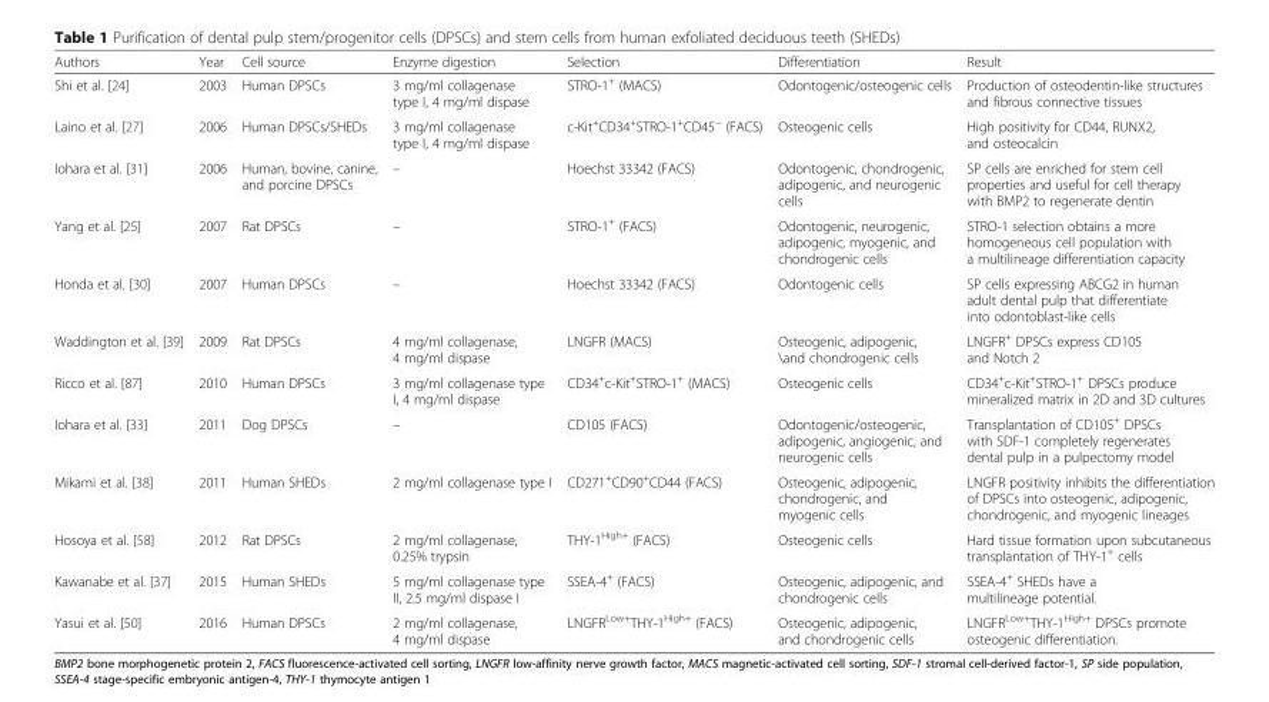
<table><thead><tr><td>Authors</td><td>Year</td><td>Cell source</td><td>Enzyme digestion</td><td>Selection</td><td>Differentiation</td><td>Result</td></tr></thead><tbody><tr><td>Shi et al. [24]</td><td>2003</td><td>Human DPSCs</td><td>3 mg/ml collagenase type I, 4 mg/ml dispase</td><td>STRO-1<sup>+</sup> (MACS)</td><td>Odontogenic/osteogenic cells</td><td>Production of osteodentin-like structures and fibrous connective tissues</td></tr><tr><td>Laino et al. [27]</td><td>2006</td><td>Human DPSCs/SHEDs</td><td>3 mg/ml collagenase type I, 4 mg/ml dispase</td><td>c-Kit<sup>+</sup>CD34<sup>+</sup>STRO-1<sup>+</sup>CD45<sup>−</sup> (FACS)</td><td>Osteogenic cells</td><td>High positivity for CD44, RUNX2, and osteocalcin</td></tr><tr><td>Iohara et al. [31]</td><td>2006</td><td>Human, bovine, canine, and porcine DPSCs</td><td>–</td><td>Hoechst 33342 (FACS)</td><td>Odontogenic, chondrogenic, adipogenic, and neurogenic cells</td><td>SP cells are enriched for stem cell properties and useful for cell therapy with BMP2 to regenerate dentin</td></tr><tr><td>Yang et al. [25]</td><td>2007</td><td>Rat DPSCs</td><td>–</td><td>STRO-1<sup>+</sup> (FACS)</td><td>Odontogenic, neurogenic, adipogenic, myogenic, and chondrogenic cells</td><td>STRO-1 selection obtains a more homogeneous cell population with a multilineage differentiation capacity</td></tr><tr><td>Honda et al. [30]</td><td>2007</td><td>Human DPSCs</td><td>–</td><td>Hoechst 33342 (FACS)</td><td>Odontogenic cells</td><td>SP cells expressing ABCG2 in human adult dental pulp that differentiate into odontoblast-like cells</td></tr><tr><td>Waddington et al. [39]</td><td>2009</td><td>Rat DPSCs</td><td>4 mg/ml collagenase, 4 mg/ml dispase</td><td>LNGFR (MACS)</td><td>Osteogenic, adipogenic, \and chondrogenic cells</td><td>LNGFR<sup>+</sup> DPSCs express CD105 and Notch 2</td></tr><tr><td>Ricco et al. [87]</td><td>2010</td><td>Human DPSCs</td><td>3 mg/ml collagenase type I, 4 mg/ml dispase</td><td>CD34<sup>+</sup>c-Kit<sup>+</sup>STRO-1<sup>+</sup> (MACS)</td><td>Osteogenic cells</td><td>CD34<sup>+</sup>c-Kit<sup>+</sup>STRO-1<sup>+</sup> DPSCs produce mineralized matrix in 2D and 3D cultures</td></tr><tr><td>Iohara et al. [33]</td><td>2011</td><td>Dog DPSCs</td><td>–</td><td>CD105 (FACS)</td><td>Odontogenic/osteogenic, adipogenic, angiogenic, and neurogenic cells</td><td>Transplantation of CD105<sup>+</sup> DPSCs with SDF-1 completely regenerates dental pulp in a pulpectomy model</td></tr><tr><td>Mikami et al. [38]</td><td>2011</td><td>Human SHEDs</td><td>2 mg/ml collagenase type I</td><td>CD271<sup>+</sup>CD90<sup>+</sup>CD44 (FACS)</td><td>Osteogenic, adipogenic, chondrogenic, and myogenic cells</td><td>LNGFR positivity inhibits the differentiation of DPSCs into osteogenic, adipogenic, chondrogenic, and myogenic lineages</td></tr><tr><td>Hosoya et al. [58]</td><td>2012</td><td>Rat DPSCs</td><td>2 mg/ml collagenase, 0.25% trypsin</td><td>THY-1<sup>High+</sup> (FACS)</td><td>Osteogenic cells</td><td>Hard tissue formation upon subcutaneous transplantation of THY-1<sup>+</sup> cells</td></tr><tr><td>Kawanabe et al. [37]</td><td>2015</td><td>Human SHEDs</td><td>5 mg/ml collagenase type II, 2.5 mg/ml dispase I</td><td>SSEA-4<sup>+</sup> (FACS)</td><td>Osteogenic, adipogenic, and chondrogenic cells</td><td>SSEA-4<sup>+</sup> SHEDs have a multilineage potential.</td></tr><tr><td>Yasui et al. [50]</td><td>2016</td><td>Human DPSCs</td><td>2 mg/ml collagenase, 4 mg/ml dispase</td><td>LNGFR<sup>Low+</sup>THY-1<sup>High+</sup> (FACS)</td><td>Osteogenic, adipogenic, and chondrogenic cells</td><td>LNGFR<sup>Low+</sup>THY-1<sup>High+</sup> DPSCs promote osteogenic differentiation.</td></tr></tbody></table>